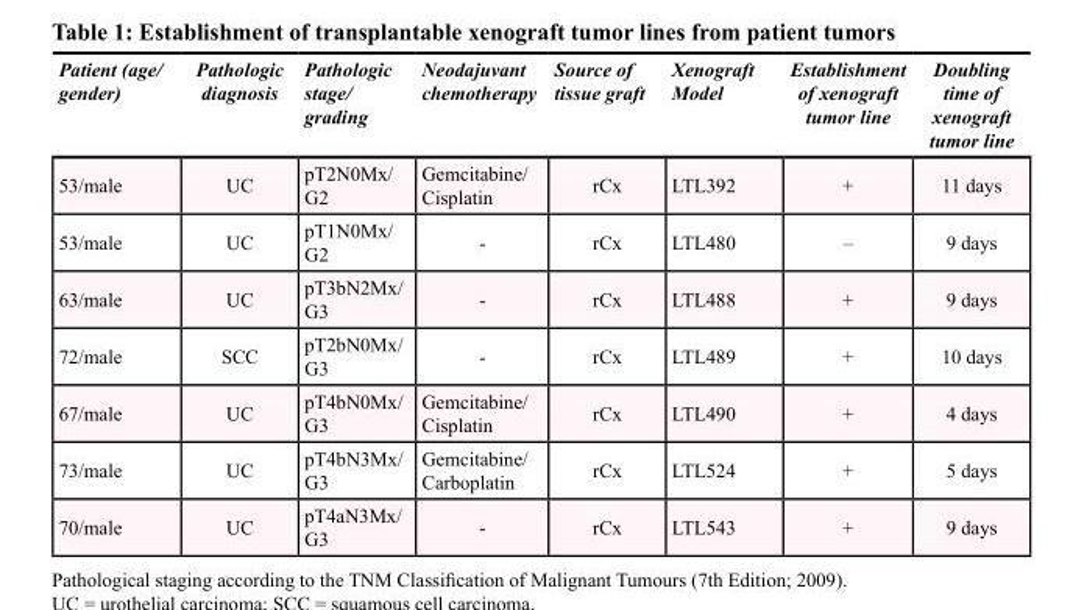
<table><thead><tr><td>Patient (age/ gender)</td><td>Pathologic diagnosis</td><td>Pathologic stage/ grading</td><td>Neodajuvant chemotherapy</td><td>Source of tissue graft</td><td>Xenograft Model</td><td>Establishment of xenograft tumor line</td><td>Doubling time of xenograft tumor line</td></tr></thead><tbody><tr><td>53/male</td><td>UC</td><td>pT2N0Mx/ G2</td><td>Gemcitabine/ Cisplatin</td><td>rCx</td><td>LTL392</td><td>+</td><td>11 days</td></tr><tr><td>53/male</td><td>UC</td><td>pT1N0Mx/ G2</td><td>-</td><td>rCx</td><td>LTL480</td><td>–</td><td>9 days</td></tr><tr><td>63/male</td><td>UC</td><td>pT3bN2Mx/ G3</td><td>-</td><td>rCx</td><td>LTL488</td><td>+</td><td>9 days</td></tr><tr><td>72/male</td><td>SCC</td><td>pT2bN0Mx/ G3</td><td>-</td><td>rCx</td><td>LTL489</td><td>+</td><td>10 days</td></tr><tr><td>67/male</td><td>UC</td><td>pT4bN0Mx/ G3</td><td>Gemcitabine/ Cisplatin</td><td>rCx</td><td>LTL490</td><td>+</td><td>4 days</td></tr><tr><td>73/male</td><td>UC</td><td>pT4bN3Mx/ G3</td><td>Gemcitabine/ Carboplatin</td><td>rCx</td><td>LTL524</td><td>+</td><td>5 days</td></tr><tr><td>70/male</td><td>UC</td><td>pT4aN3Mx/ G3</td><td>-</td><td>rCx</td><td>LTL543</td><td>+</td><td>9 days</td></tr></tbody></table>